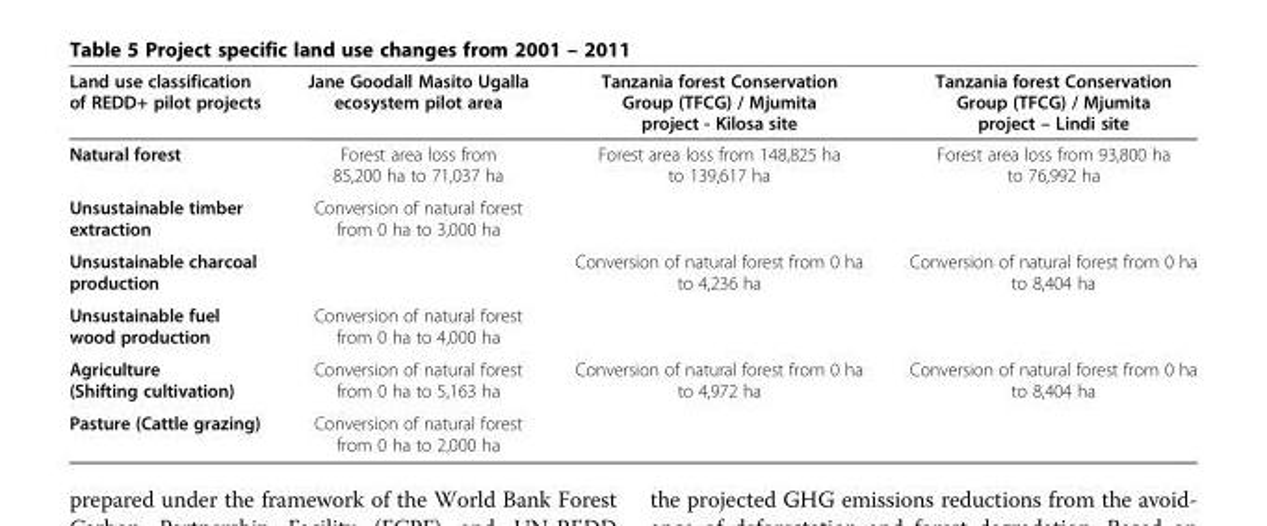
<table><thead><tr><td>Land use classification of REDD+ pilot projects</td><td>Jane Goodall Masito Ugalla ecosystem pilot area</td><td>Tanzania forest Conservation Group (TFCG) / Mjumita project - Kilosa site</td><td>Tanzania forest Conservation Group (TFCG) / Mjumita project – Lindi site</td></tr></thead><tbody><tr><td>Natural forest</td><td>Forest area loss from 85,200 ha to 71,037 ha</td><td>Forest area loss from 148,825 ha to 139,617 ha</td><td>Forest area loss from 93,800 ha to 76,992 ha</td></tr><tr><td>Unsustainable timber extraction</td><td>Conversion of natural forest from 0 ha to 3,000 ha</td><td></td><td></td></tr><tr><td>Unsustainable charcoal production</td><td></td><td>Conversion of natural forest from 0 ha to 4,236 ha</td><td>Conversion of natural forest from 0 ha to 8,404 ha</td></tr><tr><td>Unsustainable fuel wood production</td><td>Conversion of natural forest from 0 ha to 4,000 ha</td><td></td><td></td></tr><tr><td>Agriculture (Shifting cultivation)</td><td>Conversion of natural forest from 0 ha to 5,163 ha</td><td>Conversion of natural forest from 0 ha to 4,972 ha</td><td>Conversion of natural forest from 0 ha to 8,404 ha</td></tr><tr><td>Pasture (Cattle grazing)</td><td>Conversion of natural forest from 0 ha to 2,000 ha</td><td></td><td></td></tr></tbody></table>